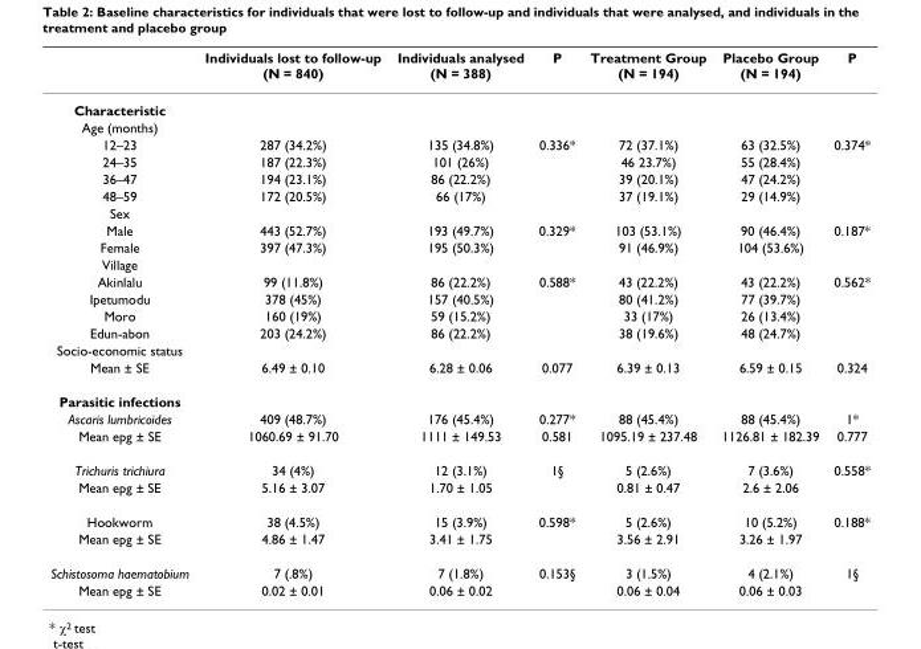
<table><thead><tr><td></td><td>Individuals lost to follow-up (N = 840)</td><td>Individuals analysed (N = 388)</td><td>P</td><td>Treatment Group (N = 194)</td><td>Placebo Group (N = 194)</td><td>P</td></tr></thead><tbody><tr><td colspan="7">Characteristic</td></tr><tr><td colspan="7">Age (months)</td></tr><tr><td>12–23</td><td>287 (34.2%)</td><td>135 (34.8%)</td><td>0.336*</td><td>72 (37.1%)</td><td>63 (32.5%)</td><td>0.374*</td></tr><tr><td>24–35</td><td>187 (22.3%)</td><td>101 (26%)</td><td></td><td>46 23.7%)</td><td>55 (28.4%)</td><td></td></tr><tr><td>36–47</td><td>194 (23.1%)</td><td>86 (22.2%)</td><td></td><td>39 (20.1%)</td><td>47 (24.2%)</td><td></td></tr><tr><td>48–59</td><td>172 (20.5%)</td><td>66 (17%)</td><td></td><td>37 (19.1%)</td><td>29 (14.9%)</td><td></td></tr><tr><td colspan="7">Sex</td></tr><tr><td>Male</td><td>443 (52.7%)</td><td>193 (49.7%)</td><td>0.329*</td><td>103 (53.1%)</td><td>90 (46.4%)</td><td>0.187*</td></tr><tr><td>Female</td><td>397 (47.3%)</td><td>195 (50.3%)</td><td></td><td>91 (46.9%)</td><td>104 (53.6%)</td><td></td></tr><tr><td colspan="7">Village</td></tr><tr><td>Akinlalu</td><td>99 (11.8%)</td><td>86 (22.2%)</td><td>0.588*</td><td>43 (22.2%)</td><td>43 (22.2%)</td><td>0.562*</td></tr><tr><td>Ipetumodu</td><td>378 (45%)</td><td>157 (40.5%)</td><td></td><td>80 (41.2%)</td><td>77 (39.7%)</td><td></td></tr><tr><td>Moro</td><td>160 (19%)</td><td>59 (15.2%)</td><td></td><td>33 (17%)</td><td>26 (13.4%)</td><td></td></tr><tr><td>Edun-abon</td><td>203 (24.2%)</td><td>86 (22.2%)</td><td></td><td>38 (19.6%)</td><td>48 (24.7%)</td><td></td></tr><tr><td colspan="7">Socio-economic status</td></tr><tr><td>Mean ± SE</td><td>6.49 ± 0.10</td><td>6.28 ± 0.06</td><td>0.077</td><td>6.39 ± 0.13</td><td>6.59 ± 0.15</td><td>0.324</td></tr><tr><td colspan="7">Parasitic infections</td></tr><tr><td>Ascaris lumbricoides</td><td>409 (48.7%)</td><td>176 (45.4%)</td><td>0.277*</td><td>88 (45.4%)</td><td>88 (45.4%)</td><td>1*</td></tr><tr><td>Mean epg ± SE</td><td>1060.69 ± 91.70</td><td>1111 ± 149.53</td><td>0.581</td><td>1095.19 ± 237.48</td><td>1126.81 ± 182.39</td><td>0.777</td></tr><tr><td>Trichuris trichiura</td><td>34 (4%)</td><td>12 (3.1%)</td><td>1§</td><td>5 (2.6%)</td><td>7 (3.6%)</td><td>0.558*</td></tr><tr><td>Mean epg ± SE</td><td>5.16 ± 3.07</td><td>1.70 ± 1.05</td><td></td><td>0.81 ± 0.47</td><td>2.6 ± 2.06</td><td></td></tr><tr><td>Hookworm</td><td>38 (4.5%)</td><td>15 (3.9%)</td><td>0.598*</td><td>5 (2.6%)</td><td>10 (5.2%)</td><td>0.188*</td></tr><tr><td>Mean epg ± SE</td><td>4.86 ± 1.47</td><td>3.41 ± 1.75</td><td></td><td>3.56 ± 2.91</td><td>3.26 ± 1.97</td><td></td></tr><tr><td>Schistosoma haematobium</td><td>7 (.8%)</td><td>7 (1.8%)</td><td>0.153§</td><td>3 (1.5%)</td><td>4 (2.1%)</td><td>1§</td></tr><tr><td>Mean epg ± SE</td><td>0.02 ± 0.01</td><td>0.06 ± 0.02</td><td></td><td>0.06 ± 0.04</td><td>0.06 ± 0.03</td><td></td></tr></tbody></table>